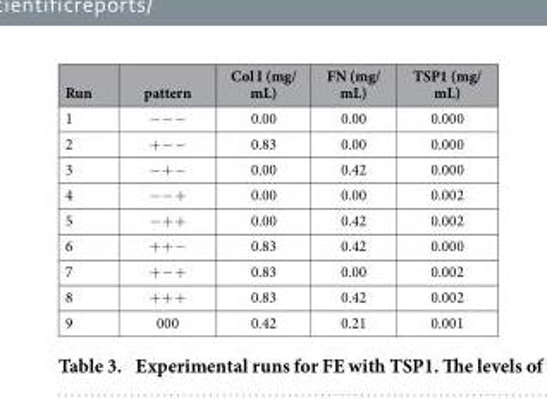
<table><thead><tr><td>Run</td><td>pattern</td><td>Col I (mg/ mL)</td><td>FN (mg/ mL)</td><td>TSP1 (mg/ mL)</td></tr></thead><tbody><tr><td>1</td><td>− − −</td><td>0.00</td><td>0.00</td><td>0.000</td></tr><tr><td>2</td><td>+ − −</td><td>0.83</td><td>0.00</td><td>0.000</td></tr><tr><td>3</td><td>− + −</td><td>0.00</td><td>0.42</td><td>0.000</td></tr><tr><td>4</td><td>− − +</td><td>0.00</td><td>0.00</td><td>0.002</td></tr><tr><td>5</td><td>− + +</td><td>0.00</td><td>0.42</td><td>0.002</td></tr><tr><td>6</td><td>+ + −</td><td>0.83</td><td>0.42</td><td>0.000</td></tr><tr><td>7</td><td>+ − +</td><td>0.83</td><td>0.00</td><td>0.002</td></tr><tr><td>8</td><td>+ + +</td><td>0.83</td><td>0.42</td><td>0.002</td></tr><tr><td>9</td><td>000</td><td>0.42</td><td>0.21</td><td>0.001</td></tr></tbody></table>